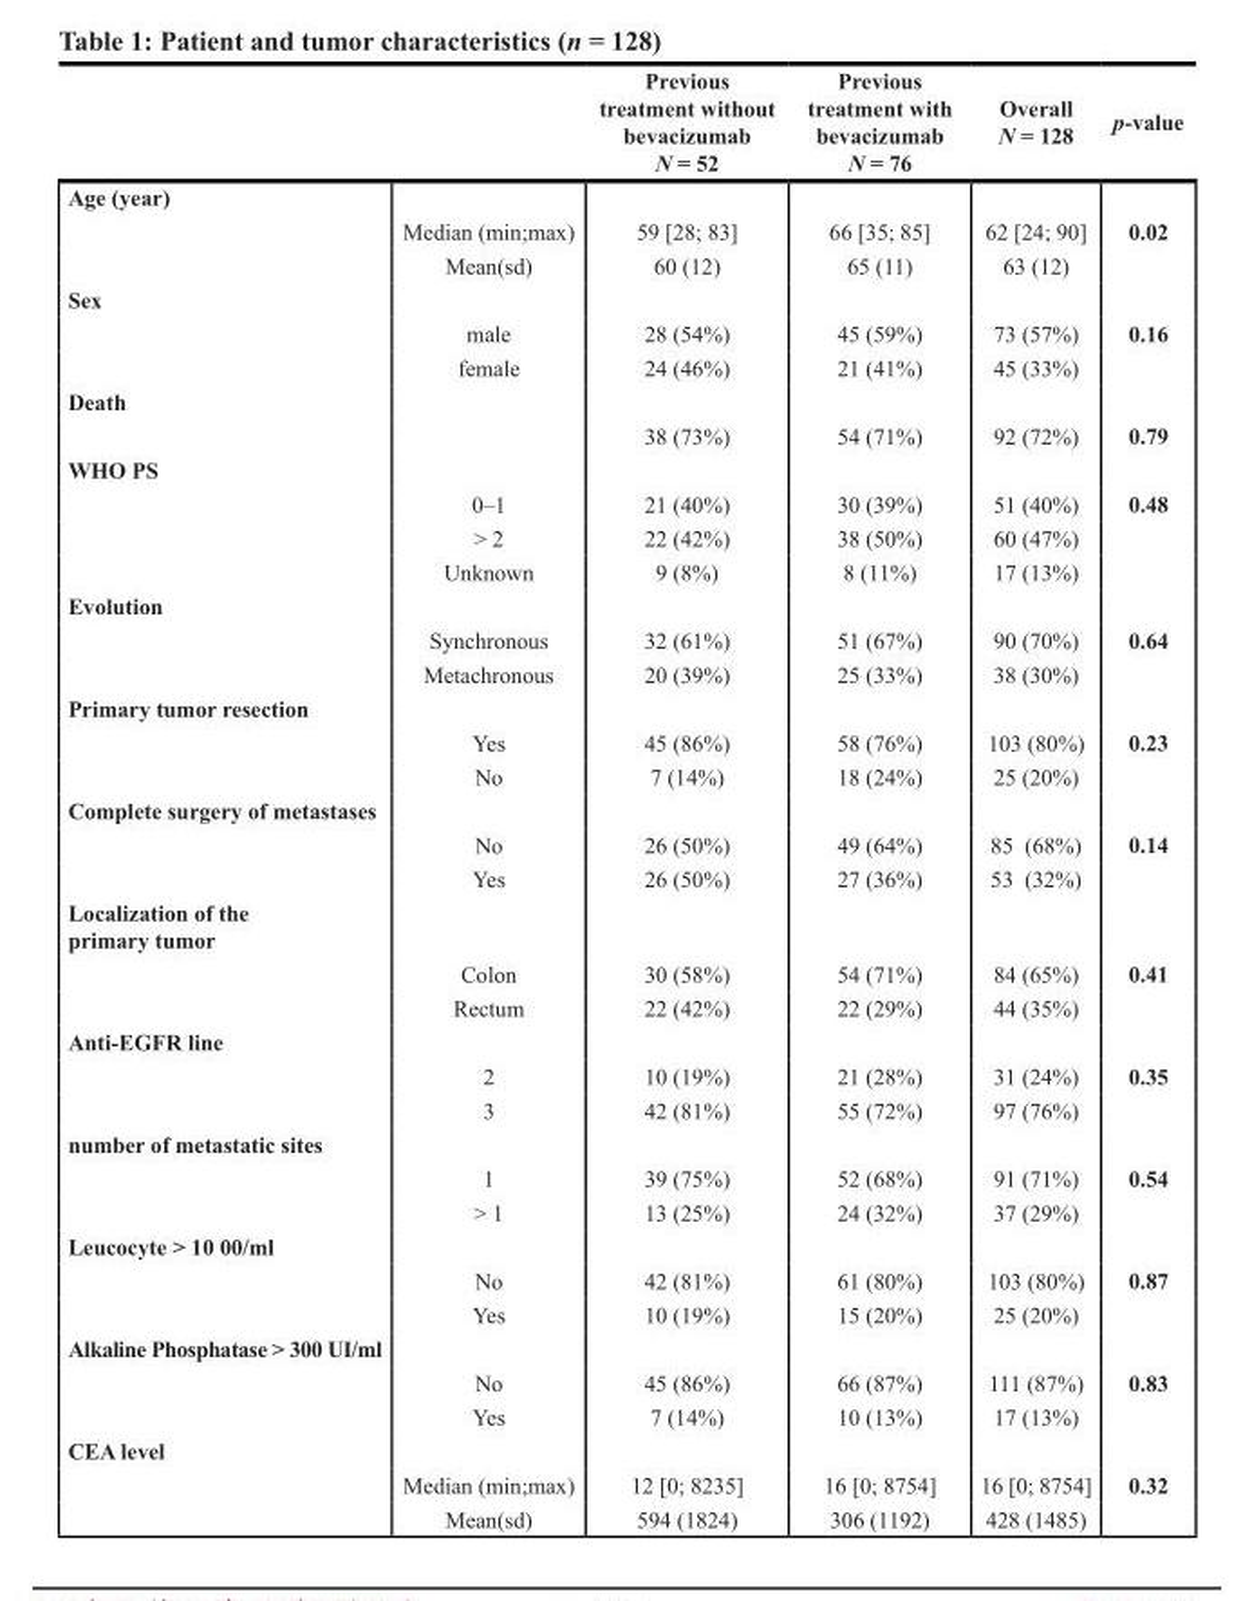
<table><thead><tr><td></td><td></td><td>Previous treatment without bevacizumab N = 52</td><td>Previous treatment with bevacizumab N = 76</td><td>Overall N = 128</td><td>p-value</td></tr></thead><tbody><tr><td colspan="6">Age (year)</td></tr><tr><td></td><td>Median (min;max)</td><td>59 [28; 83]</td><td>66 [35; 85]</td><td>62 [24; 90]</td><td>0.02</td></tr><tr><td></td><td>Mean(sd)</td><td>60 (12)</td><td>65 (11)</td><td>63 (12)</td><td></td></tr><tr><td colspan="6">Sex</td></tr><tr><td></td><td>male</td><td>28 (54%)</td><td>45 (59%)</td><td>73 (57%)</td><td>0.16</td></tr><tr><td></td><td>female</td><td>24 (46%)</td><td>21 (41%)</td><td>45 (33%)</td><td></td></tr><tr><td colspan="6">Death</td></tr><tr><td></td><td></td><td>38 (73%)</td><td>54 (71%)</td><td>92 (72%)</td><td>0.79</td></tr><tr><td colspan="6">WHO PS</td></tr><tr><td></td><td>0–1</td><td>21 (40%)</td><td>30 (39%)</td><td>51 (40%)</td><td>0.48</td></tr><tr><td></td><td>&gt; 2</td><td>22 (42%)</td><td>38 (50%)</td><td>60 (47%)</td><td></td></tr><tr><td></td><td>Unknown</td><td>9 (8%)</td><td>8 (11%)</td><td>17 (13%)</td><td></td></tr><tr><td colspan="6">Evolution</td></tr><tr><td></td><td>Synchronous</td><td>32 (61%)</td><td>51 (67%)</td><td>90 (70%)</td><td>0.64</td></tr><tr><td></td><td>Metachronous</td><td>20 (39%)</td><td>25 (33%)</td><td>38 (30%)</td><td></td></tr><tr><td colspan="6">Primary tumor resection</td></tr><tr><td></td><td>Yes</td><td>45 (86%)</td><td>58 (76%)</td><td>103 (80%)</td><td>0.23</td></tr><tr><td></td><td>No</td><td>7 (14%)</td><td>18 (24%)</td><td>25 (20%)</td><td></td></tr><tr><td colspan="6">Complete surgery of metastases</td></tr><tr><td></td><td>No</td><td>26 (50%)</td><td>49 (64%)</td><td>85 (68%)</td><td>0.14</td></tr><tr><td></td><td>Yes</td><td>26 (50%)</td><td>27 (36%)</td><td>53 (32%)</td><td></td></tr><tr><td colspan="6">Localization of the primary tumor</td></tr><tr><td></td><td>Colon</td><td>30 (58%)</td><td>54 (71%)</td><td>84 (65%)</td><td>0.41</td></tr><tr><td></td><td>Rectum</td><td>22 (42%)</td><td>22 (29%)</td><td>44 (35%)</td><td></td></tr><tr><td colspan="6">Anti-EGFR line</td></tr><tr><td></td><td>2</td><td>10 (19%)</td><td>21 (28%)</td><td>31 (24%)</td><td>0.35</td></tr><tr><td></td><td>3</td><td>42 (81%)</td><td>55 (72%)</td><td>97 (76%)</td><td></td></tr><tr><td colspan="6">number of metastatic sites</td></tr><tr><td></td><td>1</td><td>39 (75%)</td><td>52 (68%)</td><td>91 (71%)</td><td>0.54</td></tr><tr><td></td><td>&gt; 1</td><td>13 (25%)</td><td>24 (32%)</td><td>37 (29%)</td><td></td></tr><tr><td colspan="6">Leucocyte &gt; 10 00/ml</td></tr><tr><td></td><td>No</td><td>42 (81%)</td><td>61 (80%)</td><td>103 (80%)</td><td>0.87</td></tr><tr><td></td><td>Yes</td><td>10 (19%)</td><td>15 (20%)</td><td>25 (20%)</td><td></td></tr><tr><td colspan="6">Alkaline Phosphatase &gt; 300 UI/ml</td></tr><tr><td></td><td>No</td><td>45 (86%)</td><td>66 (87%)</td><td>111 (87%)</td><td>0.83</td></tr><tr><td></td><td>Yes</td><td>7 (14%)</td><td>10 (13%)</td><td>17 (13%)</td><td></td></tr><tr><td colspan="6">CEA level</td></tr><tr><td></td><td>Median (min;max)</td><td>12 [0; 8235]</td><td>16 [0; 8754]</td><td>16 [0; 8754]</td><td>0.32</td></tr><tr><td></td><td>Mean(sd)</td><td>594 (1824)</td><td>306 (1192)</td><td>428 (1485)</td><td></td></tr></tbody></table>